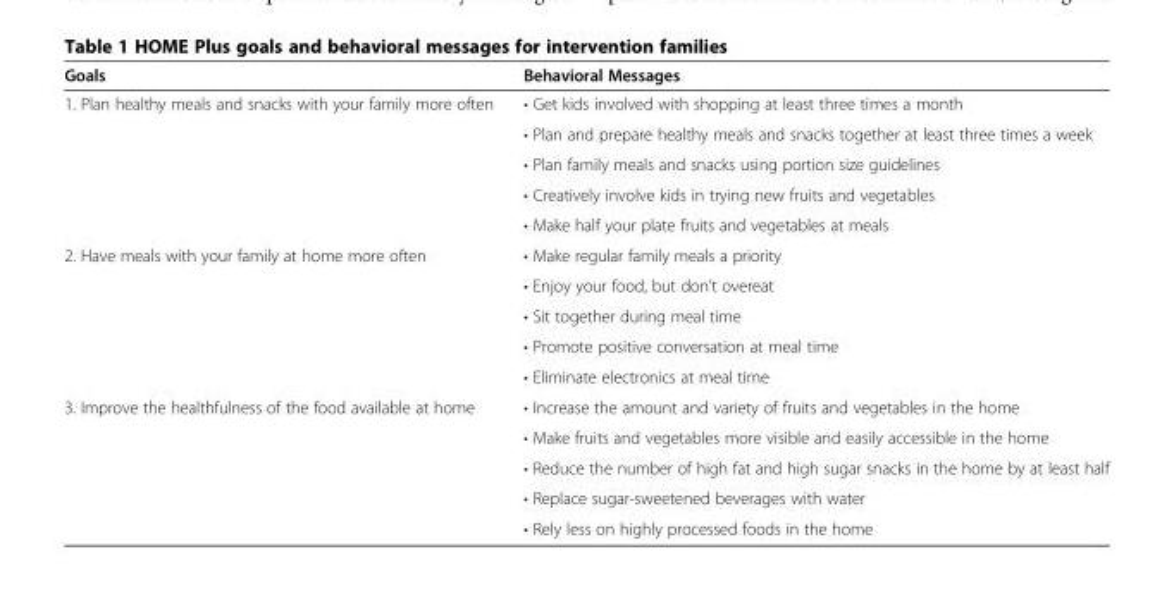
<table><thead><tr><td>Goals</td><td>Behavioral Messages</td></tr></thead><tbody><tr><td rowspan="5">1. Plan healthy meals and snacks with your family more often</td><td>• Get kids involved with shopping at least three times a month</td></tr><tr><td>• Plan and prepare healthy meals and snacks together at least three times a week</td></tr><tr><td>• Plan family meals and snacks using portion size guidelines</td></tr><tr><td>• Creatively involve kids in trying new fruits and vegetables</td></tr><tr><td>• Make half your plate fruits and vegetables at meals</td></tr><tr><td rowspan="5">2. Have meals with your family at home more often</td><td>• Make regular family meals a priority</td></tr><tr><td>• Enjoy your food, but don’t overeat</td></tr><tr><td>• Sit together during meal time</td></tr><tr><td>• Promote positive conversation at meal time</td></tr><tr><td>• Eliminate electronics at meal time</td></tr><tr><td rowspan="5">3. Improve the healthfulness of the food available at home</td><td>• Increase the amount and variety of fruits and vegetables in the home</td></tr><tr><td>• Make fruits and vegetables more visible and easily accessible in the home</td></tr><tr><td>• Reduce the number of high fat and high sugar snacks in the home by at least half</td></tr><tr><td>• Replace sugar-sweetened beverages with water</td></tr><tr><td>• Rely less on highly processed foods in the home</td></tr></tbody></table>